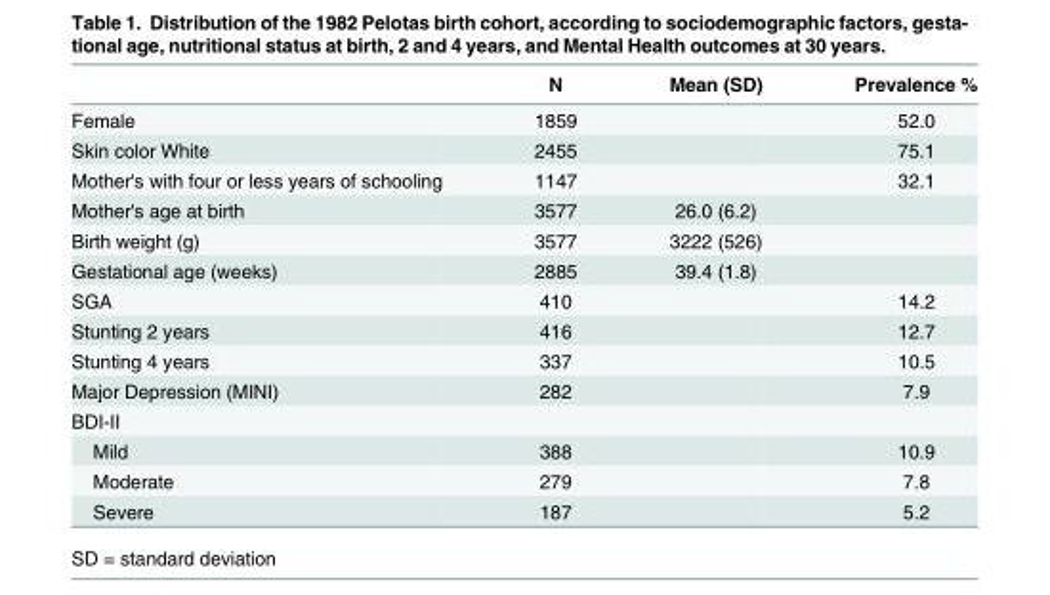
<table><thead><tr><td></td><td>N</td><td>Mean (SD)</td><td>Prevalence %</td></tr></thead><tbody><tr><td>Female</td><td>1859</td><td></td><td>52.0</td></tr><tr><td>Skin color White</td><td>2455</td><td></td><td>75.1</td></tr><tr><td>Mother&#x27;s with four or less years of schooling</td><td>1147</td><td></td><td>32.1</td></tr><tr><td>Mother&#x27;s age at birth</td><td>3577</td><td>26.0 (6.2)</td><td></td></tr><tr><td>Birth weight (g)</td><td>3577</td><td>3222 (526)</td><td></td></tr><tr><td>Gestational age (weeks)</td><td>2885</td><td>39.4 (1.8)</td><td></td></tr><tr><td>SGA</td><td>410</td><td></td><td>14.2</td></tr><tr><td>Stunting 2 years</td><td>416</td><td></td><td>12.7</td></tr><tr><td>Stunting 4 years</td><td>337</td><td></td><td>10.5</td></tr><tr><td>Major Depression (MINI)</td><td>282</td><td></td><td>7.9</td></tr><tr><td colspan="4">BDI-II</td></tr><tr><td>Mild</td><td>388</td><td></td><td>10.9</td></tr><tr><td>Moderate</td><td>279</td><td></td><td>7.8</td></tr><tr><td>Severe</td><td>187</td><td></td><td>5.2</td></tr></tbody></table>